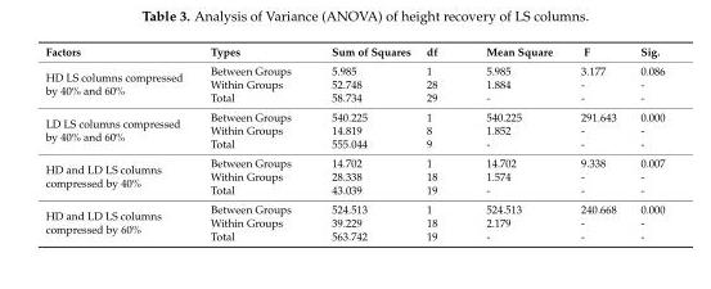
<table><thead><tr><td>Factors</td><td>Types</td><td>Sum of Squares</td><td>df</td><td>Mean Square</td><td>F</td><td>Sig.</td></tr></thead><tbody><tr><td rowspan="3">HD LS columns compressed by 40% and 60%</td><td>Between Groups</td><td>5.985</td><td>1</td><td>5.985</td><td>3.177</td><td>0.086</td></tr><tr><td>Within Groups</td><td>52.748</td><td>28</td><td>1.884</td><td>-</td><td>-</td></tr><tr><td>Total</td><td>58.734</td><td>29</td><td>-</td><td>-</td><td>-</td></tr><tr><td rowspan="3">LD LS columns compressed by 40% and 60%</td><td>Between Groups</td><td>540.225</td><td>1</td><td>540.225</td><td>291.643</td><td>0.000</td></tr><tr><td>Within Groups</td><td>14.819</td><td>8</td><td>1.852</td><td>-</td><td>-</td></tr><tr><td>Total</td><td>555.044</td><td>9</td><td>-</td><td>-</td><td>-</td></tr><tr><td rowspan="3">HD and LD LS columns compressed by 40%</td><td>Between Groups</td><td>14.702</td><td>1</td><td>14.702</td><td>9.338</td><td>0.007</td></tr><tr><td>Within Groups</td><td>28.338</td><td>18</td><td>1.574</td><td>-</td><td>-</td></tr><tr><td>Total</td><td>43.039</td><td>19</td><td>-</td><td>-</td><td>-</td></tr><tr><td rowspan="3">HD and LD LS columns compressed by 60%</td><td>Between Groups</td><td>524.513</td><td>1</td><td>524.513</td><td>240.668</td><td>0.000</td></tr><tr><td>Within Groups</td><td>39.229</td><td>18</td><td>2.179</td><td>-</td><td>-</td></tr><tr><td>Total</td><td>563.742</td><td>19</td><td>-</td><td>-</td><td>-</td></tr></tbody></table>